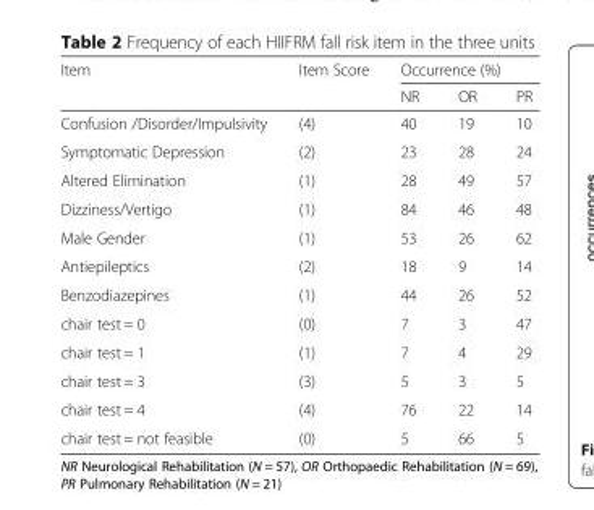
<table><thead><tr><td rowspan="2">Item</td><td rowspan="2">Item Score</td><td colspan="3">Occurrence (%)</td></tr><tr><td>NR</td><td>OR</td><td>PR</td></tr></thead><tbody><tr><td>Confusion /Disorder/Impulsivity</td><td>(4)</td><td>40</td><td>19</td><td>10</td></tr><tr><td>Symptomatic Depression</td><td>(2)</td><td>23</td><td>28</td><td>24</td></tr><tr><td>Altered Elimination</td><td>(1)</td><td>28</td><td>49</td><td>57</td></tr><tr><td>Dizziness/Vertigo</td><td>(1)</td><td>84</td><td>46</td><td>48</td></tr><tr><td>Male Gender</td><td>(1)</td><td>53</td><td>26</td><td>62</td></tr><tr><td>Antiepileptics</td><td>(2)</td><td>18</td><td>9</td><td>14</td></tr><tr><td>Benzodiazepines</td><td>(1)</td><td>44</td><td>26</td><td>52</td></tr><tr><td>chair test = 0</td><td>(0)</td><td>7</td><td>3</td><td>47</td></tr><tr><td>chair test = 1</td><td>(1)</td><td>7</td><td>4</td><td>29</td></tr><tr><td>chair test = 3</td><td>(3)</td><td>5</td><td>3</td><td>5</td></tr><tr><td>chair test = 4</td><td>(4)</td><td>76</td><td>22</td><td>14</td></tr><tr><td>chair test = not feasible</td><td>(0)</td><td>5</td><td>66</td><td>5</td></tr></tbody></table>